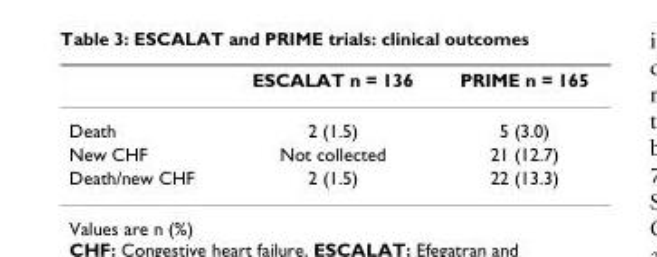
<table><thead><tr><td></td><td>ESCALAT n = 136</td><td>PRIME n = 165</td></tr></thead><tbody><tr><td>Death</td><td>2 (1.5)</td><td>5 (3.0)</td></tr><tr><td>New CHF</td><td>Not collected</td><td>21 (12.7)</td></tr><tr><td>Death/new CHF</td><td>2 (1.5)</td><td>22 (13.3)</td></tr></tbody></table>